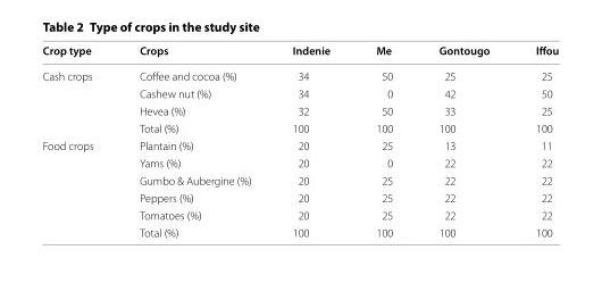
<table><thead><tr><td>Crop type</td><td>Crops</td><td>Indenie</td><td>Me</td><td>Gontougo</td><td>Iffou</td></tr></thead><tbody><tr><td rowspan="4">Cash crops</td><td>Coffee and cocoa (%)</td><td>34</td><td>50</td><td>25</td><td>25</td></tr><tr><td>Cashew nut (%)</td><td>34</td><td>0</td><td>42</td><td>50</td></tr><tr><td>Hevea (%)</td><td>32</td><td>50</td><td>33</td><td>25</td></tr><tr><td>Total (%)</td><td>100</td><td>100</td><td>100</td><td>100</td></tr><tr><td rowspan="6">Food crops</td><td>Plantain (%)</td><td>20</td><td>25</td><td>13</td><td>11</td></tr><tr><td>Yams (%)</td><td>20</td><td>0</td><td>22</td><td>22</td></tr><tr><td>Gumbo &amp; Aubergine (%)</td><td>20</td><td>25</td><td>22</td><td>22</td></tr><tr><td>Peppers (%)</td><td>20</td><td>25</td><td>22</td><td>22</td></tr><tr><td>Tomatoes (%)</td><td>20</td><td>25</td><td>22</td><td>22</td></tr><tr><td>Total (%)</td><td>100</td><td>100</td><td>100</td><td>100</td></tr></tbody></table>